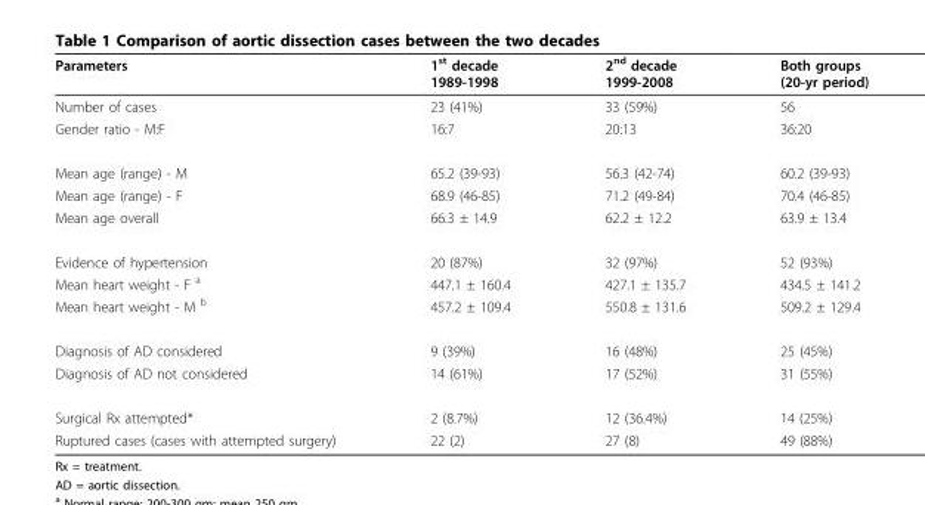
<table><thead><tr><td>Parameters</td><td>1<sup>st</sup> decade 1989-1998</td><td>2<sup>nd</sup> decade 1999-2008</td><td>Both groups (20-yr period)</td></tr></thead><tbody><tr><td>Number of cases</td><td>23 (41%)</td><td>33 (59%)</td><td>56</td></tr><tr><td>Gender ratio - M:F</td><td>16:7</td><td>20:13</td><td>36:20</td></tr><tr><td>Mean age (range) - M</td><td>65.2 (39-93)</td><td>56.3 (42-74)</td><td>60.2 (39-93)</td></tr><tr><td>Mean age (range) - F</td><td>68.9 (46-85)</td><td>71.2 (49-84)</td><td>70.4 (46-85)</td></tr><tr><td>Mean age overall</td><td>66.3 ± 14.9</td><td>62.2 ± 12.2</td><td>63.9 ± 13.4</td></tr><tr><td>Evidence of hypertension</td><td>20 (87%)</td><td>32 (97%)</td><td>52 (93%)</td></tr><tr><td>Mean heart weight - F <sup>a</sup></td><td>447.1 ± 160.4</td><td>427.1 ± 135.7</td><td>434.5 ± 141.2</td></tr><tr><td>Mean heart weight - M <sup>b</sup></td><td>457.2 ± 109.4</td><td>550.8 ± 131.6</td><td>509.2 ± 129.4</td></tr><tr><td>Diagnosis of AD considered</td><td>9 (39%)</td><td>16 (48%)</td><td>25 (45%)</td></tr><tr><td>Diagnosis of AD not considered</td><td>14 (61%)</td><td>17 (52%)</td><td>31 (55%)</td></tr><tr><td>Surgical Rx attempted*</td><td>2 (8.7%)</td><td>12 (36.4%)</td><td>14 (25%)</td></tr><tr><td>Ruptured cases (cases with attempted surgery)</td><td>22 (2)</td><td>27 (8)</td><td>49 (88%)</td></tr></tbody></table>